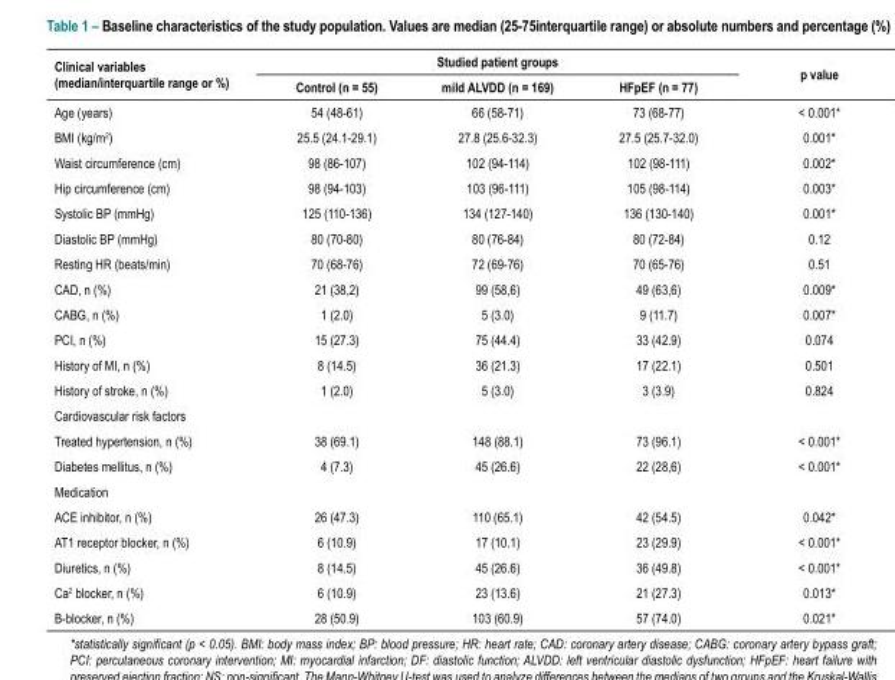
<table><thead><tr><td rowspan="2">Clinical variables (median/interquartile range or %)</td><td colspan="3">Studied patient groups</td><td rowspan="2">p value</td></tr><tr><td>Control (n = 55)</td><td>mild ALVDD (n = 169)</td><td>HFpEF (n = 77)</td></tr></thead><tbody><tr><td>Age (years)</td><td>54 (48-61)</td><td>66 (58-71)</td><td>73 (68-77)</td><td>&lt; 0.001*</td></tr><tr><td>BMI (kg/m<sup>2</sup>)</td><td>25.5 (24.1-29.1)</td><td>27.8 (25.6-32.3)</td><td>27.5 (25.7-32.0)</td><td>0.001*</td></tr><tr><td>Waist circumference (cm)</td><td>98 (86-107)</td><td>102 (94-114)</td><td>102 (98-111)</td><td>0.002*</td></tr><tr><td>Hip circumference (cm)</td><td>98 (94-103)</td><td>103 (96-111)</td><td>105 (98-114)</td><td>0.003*</td></tr><tr><td>Systolic BP (mmHg)</td><td>125 (110-136)</td><td>134 (127-140)</td><td>136 (130-140)</td><td>0.001*</td></tr><tr><td>Diastolic BP (mmHg)</td><td>80 (70-80)</td><td>80 (76-84)</td><td>80 (72-84)</td><td>0.12</td></tr><tr><td>Resting HR (beats/min)</td><td>70 (68-76)</td><td>72 (69-76)</td><td>70 (65-76)</td><td>0.51</td></tr><tr><td>CAD, n (%)</td><td>21 (38,2)</td><td>99 (58,6)</td><td>49 (63,6)</td><td>0.009*</td></tr><tr><td>CABG, n (%)</td><td>1 (2.0)</td><td>5 (3.0)</td><td>9 (11.7)</td><td>0.007*</td></tr><tr><td>PCI, n (%)</td><td>15 (27.3)</td><td>75 (44.4)</td><td>33 (42.9)</td><td>0.074</td></tr><tr><td>History of MI, n (%)</td><td>8 (14.5)</td><td>36 (21.3)</td><td>17 (22.1)</td><td>0.501</td></tr><tr><td>History of stroke, n (%)</td><td>1 (2.0)</td><td>5 (3.0)</td><td>3 (3.9)</td><td>0.824</td></tr><tr><td colspan="5">Cardiovascular risk factors</td></tr><tr><td>Treated hypertension, n (%)</td><td>38 (69.1)</td><td>148 (88.1)</td><td>73 (96.1)</td><td>&lt; 0.001*</td></tr><tr><td>Diabetes mellitus, n (%)</td><td>4 (7.3)</td><td>45 (26.6)</td><td>22 (28,6)</td><td>&lt; 0.001*</td></tr><tr><td colspan="5">Medication</td></tr><tr><td>ACE inhibitor, n (%)</td><td>26 (47.3)</td><td>110 (65.1)</td><td>42 (54.5)</td><td>0.042*</td></tr><tr><td>AT1 receptor blocker, n (%)</td><td>6 (10.9)</td><td>17 (10.1)</td><td>23 (29.9)</td><td>&lt; 0.001*</td></tr><tr><td>Diuretics, n (%)</td><td>8 (14.5)</td><td>45 (26.6)</td><td>36 (49.8)</td><td>&lt; 0.001*</td></tr><tr><td>Ca<sup>2</sup> blocker, n (%)</td><td>6 (10.9)</td><td>23 (13.6)</td><td>21 (27.3)</td><td>0.013*</td></tr><tr><td>Β-blocker, n (%)</td><td>28 (50.9)</td><td>103 (60.9)</td><td>57 (74.0)</td><td>0.021*</td></tr></tbody></table>